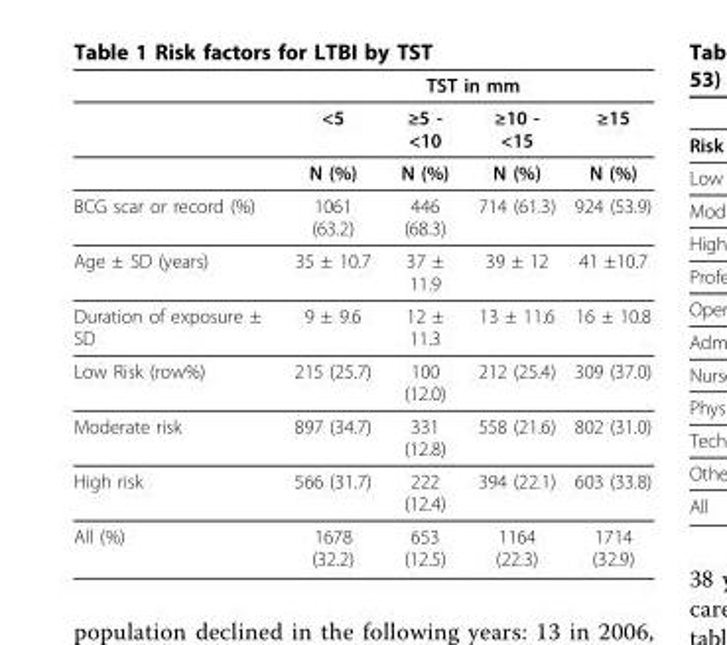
<table><thead><tr><td rowspan="2"></td><td colspan="4">TST in mm</td></tr><tr><td>&lt;5</td><td>≥5 - &lt;10</td><td>≥10 - &lt;15</td><td>≥15</td></tr></thead><tbody><tr><td></td><td>N (%)</td><td>N (%)</td><td>N (%)</td><td>N (%)</td></tr><tr><td>BCG scar or record (%)</td><td>1061 (63.2)</td><td>446 (68.3)</td><td>714 (61.3)</td><td>924 (53.9)</td></tr><tr><td>Age ± SD (years)</td><td>35 ± 10.7</td><td>37 ± 11.9</td><td>39 ± 12</td><td>41 ±10.7</td></tr><tr><td>Duration of exposure ± SD</td><td>9 ± 9.6</td><td>12 ± 11.3</td><td>13 ± 11.6</td><td>16 ± 10.8</td></tr><tr><td>Low Risk (row%)</td><td>215 (25.7)</td><td>100 (12.0)</td><td>212 (25.4)</td><td>309 (37.0)</td></tr><tr><td>Moderate risk</td><td>897 (34.7)</td><td>331 (12.8)</td><td>558 (21.6)</td><td>802 (31.0)</td></tr><tr><td>High risk</td><td>566 (31.7)</td><td>222 (12.4)</td><td>394 (22.1)</td><td>603 (33.8)</td></tr><tr><td>All (%)</td><td>1678 (32.2)</td><td>653 (12.5)</td><td>1164 (22.3)</td><td>1714 (32.9)</td></tr></tbody></table>